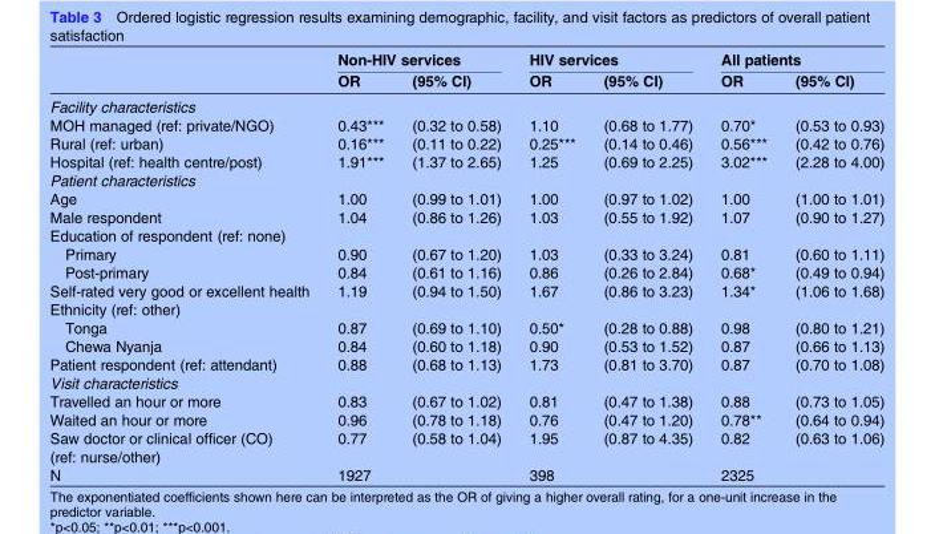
<table><thead><tr><td rowspan="2"></td><td colspan="2">Non-HIV services</td><td colspan="2">HIV services</td><td colspan="2">All patients</td></tr><tr><td>OR</td><td>(95% CI)</td><td>OR</td><td>(95% CI)</td><td>OR</td><td>(95% CI)</td></tr></thead><tbody><tr><td colspan="7">Facility characteristics</td></tr><tr><td>MOH managed (ref: private/NGO)</td><td>0.43***</td><td>(0.32 to 0.58)</td><td>1.10</td><td>(0.68 to 1.77)</td><td>0.70*</td><td>(0.53 to 0.93)</td></tr><tr><td>Rural (ref: urban)</td><td>0.16***</td><td>(0.11 to 0.22)</td><td>0.25***</td><td>(0.14 to 0.46)</td><td>0.56***</td><td>(0.42 to 0.76)</td></tr><tr><td>Hospital (ref: health centre/post)</td><td>1.91***</td><td>(1.37 to 2.65)</td><td>1.25</td><td>(0.69 to 2.25)</td><td>3.02***</td><td>(2.28 to 4.00)</td></tr><tr><td colspan="7">Patient characteristics</td></tr><tr><td>Age</td><td>1.00</td><td>(0.99 to 1.01)</td><td>1.00</td><td>(0.97 to 1.02)</td><td>1.00</td><td>(1.00 to 1.01)</td></tr><tr><td>Male respondent</td><td>1.04</td><td>(0.86 to 1.26)</td><td>1.03</td><td>(0.55 to 1.92)</td><td>1.07</td><td>(0.90 to 1.27)</td></tr><tr><td colspan="7">Education of respondent (ref: none)</td></tr><tr><td>Primary</td><td>0.90</td><td>(0.67 to 1.20)</td><td>1.03</td><td>(0.33 to 3.24)</td><td>0.81</td><td>(0.60 to 1.11)</td></tr><tr><td>Post-primary</td><td>0.84</td><td>(0.61 to 1.16)</td><td>0.86</td><td>(0.26 to 2.84)</td><td>0.68*</td><td>(0.49 to 0.94)</td></tr><tr><td>Self-rated very good or excellent health</td><td>1.19</td><td>(0.94 to 1.50)</td><td>1.67</td><td>(0.86 to 3.23)</td><td>1.34*</td><td>(1.06 to 1.68)</td></tr><tr><td colspan="7">Ethnicity (ref: other)</td></tr><tr><td>Tonga</td><td>0.87</td><td>(0.69 to 1.10)</td><td>0.50*</td><td>(0.28 to 0.88)</td><td>0.98</td><td>(0.80 to 1.21)</td></tr><tr><td>Chewa Nyanja</td><td>0.84</td><td>(0.60 to 1.18)</td><td>0.90</td><td>(0.53 to 1.52)</td><td>0.87</td><td>(0.66 to 1.13)</td></tr><tr><td>Patient respondent (ref: attendant)</td><td>0.88</td><td>(0.68 to 1.13)</td><td>1.73</td><td>(0.81 to 3.70)</td><td>0.87</td><td>(0.70 to 1.08)</td></tr><tr><td colspan="7">Visit characteristics</td></tr><tr><td>Travelled an hour or more</td><td>0.83</td><td>(0.67 to 1.02)</td><td>0.81</td><td>(0.47 to 1.38)</td><td>0.88</td><td>(0.73 to 1.05)</td></tr><tr><td>Waited an hour or more</td><td>0.96</td><td>(0.78 to 1.18)</td><td>0.76</td><td>(0.47 to 1.20)</td><td>0.78**</td><td>(0.64 to 0.94)</td></tr><tr><td>Saw doctor or clinical officer (CO) (ref: nurse/other)</td><td>0.77</td><td>(0.58 to 1.04)</td><td>1.95</td><td>(0.87 to 4.35)</td><td>0.82</td><td>(0.63 to 1.06)</td></tr><tr><td>N</td><td colspan="2">1927</td><td colspan="2">398</td><td colspan="2">2325</td></tr></tbody></table>